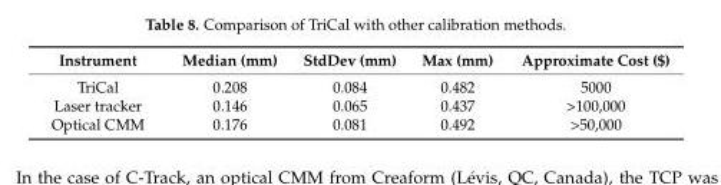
<table><thead><tr><td>Instrument</td><td>Median (mm)</td><td>StdDev (mm)</td><td>Max (mm)</td><td>Approximate Cost ($)</td></tr></thead><tbody><tr><td>TriCal</td><td>0.208</td><td>0.084</td><td>0.482</td><td>5000</td></tr><tr><td>Laser tracker</td><td>0.146</td><td>0.065</td><td>0.437</td><td>&gt;100,000</td></tr><tr><td>Optical CMM</td><td>0.176</td><td>0.081</td><td>0.492</td><td>&gt;50,000</td></tr></tbody></table>